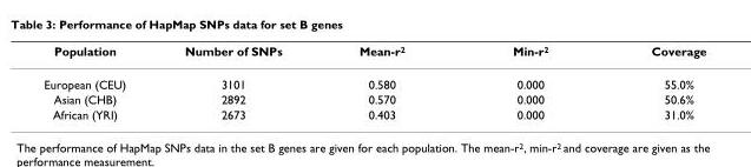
<table><thead><tr><td>Population</td><td>Number of SNPs</td><td>Mean-r2</td><td>Min-r2</td><td>Coverage</td></tr></thead><tbody><tr><td>European (CEU)</td><td>3101</td><td>0.580</td><td>0.000</td><td>55.0%</td></tr><tr><td>Asian (CHB)</td><td>2892</td><td>0.570</td><td>0.000</td><td>50.6%</td></tr><tr><td>African (YRI)</td><td>2673</td><td>0.403</td><td>0.000</td><td>31.0%</td></tr></tbody></table>